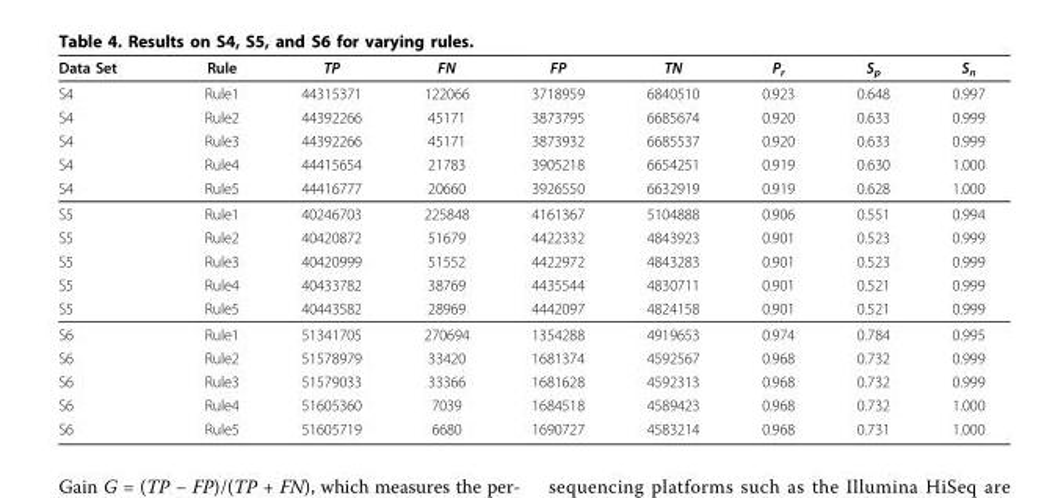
<table><thead><tr><td>Data Set</td><td>Rule</td><td>TP</td><td>FN</td><td>FP</td><td>TN</td><td>P<sub>r</sub></td><td>S<sub>p</sub></td><td>S<sub>n</sub></td></tr></thead><tbody><tr><td>S4</td><td>Rule1</td><td>44315371</td><td>122066</td><td>3718959</td><td>6840510</td><td>0.923</td><td>0.648</td><td>0.997</td></tr><tr><td>S4</td><td>Rule2</td><td>44392266</td><td>45171</td><td>3873795</td><td>6685674</td><td>0.920</td><td>0.633</td><td>0.999</td></tr><tr><td>S4</td><td>Rule3</td><td>44392266</td><td>45171</td><td>3873932</td><td>6685537</td><td>0.920</td><td>0.633</td><td>0.999</td></tr><tr><td>S4</td><td>Rule4</td><td>44415654</td><td>21783</td><td>3905218</td><td>6654251</td><td>0.919</td><td>0.630</td><td>1.000</td></tr><tr><td>S4</td><td>Rule5</td><td>44416777</td><td>20660</td><td>3926550</td><td>6632919</td><td>0.919</td><td>0.628</td><td>1.000</td></tr><tr><td>S5</td><td>Rule1</td><td>40246703</td><td>225848</td><td>4161367</td><td>5104888</td><td>0.906</td><td>0.551</td><td>0.994</td></tr><tr><td>S5</td><td>Rule2</td><td>40420872</td><td>51679</td><td>4422332</td><td>4843923</td><td>0.901</td><td>0.523</td><td>0.999</td></tr><tr><td>S5</td><td>Rule3</td><td>40420999</td><td>51552</td><td>4422972</td><td>4843283</td><td>0.901</td><td>0.523</td><td>0.999</td></tr><tr><td>S5</td><td>Rule4</td><td>40433782</td><td>38769</td><td>4435544</td><td>4830711</td><td>0.901</td><td>0.521</td><td>0.999</td></tr><tr><td>S5</td><td>Rule5</td><td>40443582</td><td>28969</td><td>4442097</td><td>4824158</td><td>0.901</td><td>0.521</td><td>0.999</td></tr><tr><td>S6</td><td>Rule1</td><td>51341705</td><td>270694</td><td>1354288</td><td>4919653</td><td>0.974</td><td>0.784</td><td>0.995</td></tr><tr><td>S6</td><td>Rule2</td><td>51578979</td><td>33420</td><td>1681374</td><td>4592567</td><td>0.968</td><td>0.732</td><td>0.999</td></tr><tr><td>S6</td><td>Rule3</td><td>51579033</td><td>33366</td><td>1681628</td><td>4592313</td><td>0.968</td><td>0.732</td><td>0.999</td></tr><tr><td>S6</td><td>Rule4</td><td>51605360</td><td>7039</td><td>1684518</td><td>4589423</td><td>0.968</td><td>0.732</td><td>1.000</td></tr><tr><td>S6</td><td>Rule5</td><td>51605719</td><td>6680</td><td>1690727</td><td>4583214</td><td>0.968</td><td>0.731</td><td>1.000</td></tr></tbody></table>